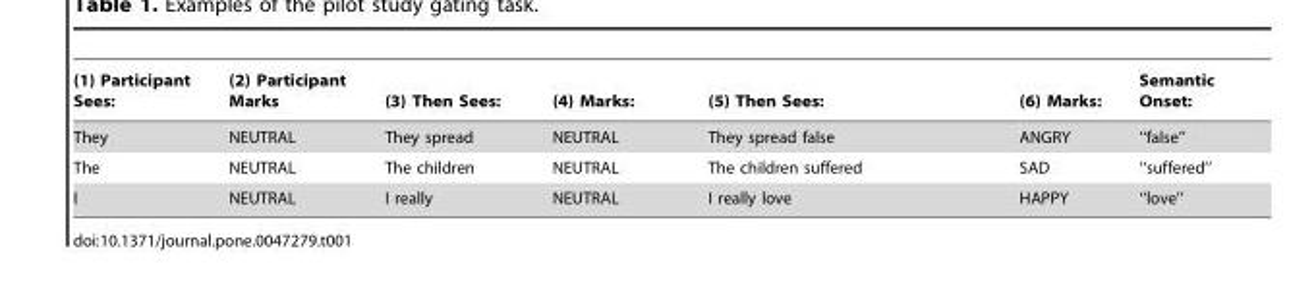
<table><thead><tr><td>(1) Participant Sees:</td><td>(2) Participant Marks</td><td>(3) Then Sees:</td><td>(4) Marks:</td><td>(5) Then Sees:</td><td>(6) Marks:</td><td>Semantic Onset:</td></tr></thead><tbody><tr><td>They</td><td>NEUTRAL</td><td>They spread</td><td>NEUTRAL</td><td>They spread false</td><td>ANGRY</td><td>‘‘false’’</td></tr><tr><td>The</td><td>NEUTRAL</td><td>The children</td><td>NEUTRAL</td><td>The children suffered</td><td>SAD</td><td>‘‘suffered’’</td></tr><tr><td>I</td><td>NEUTRAL</td><td>I really</td><td>NEUTRAL</td><td>I really love</td><td>HAPPY</td><td>‘‘love’’</td></tr></tbody></table>